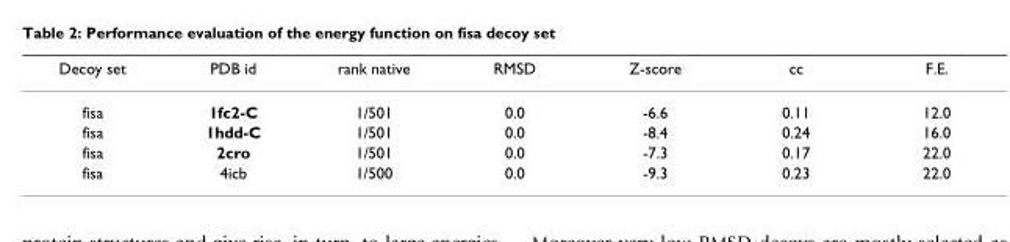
<table><thead><tr><td>Decoy set</td><td>PDB id</td><td>rank native</td><td>RMSD</td><td>Z-score</td><td>cc</td><td>F.E.</td></tr></thead><tbody><tr><td>fisa</td><td>1fc2-C</td><td>1/501</td><td>0.0</td><td>-6.6</td><td>0.11</td><td>12.0</td></tr><tr><td>fisa</td><td>1hdd-C</td><td>1/501</td><td>0.0</td><td>-8.4</td><td>0.24</td><td>16.0</td></tr><tr><td>fisa</td><td>2cro</td><td>1/501</td><td>0.0</td><td>-7.3</td><td>0.17</td><td>22.0</td></tr><tr><td>fisa</td><td>4icb</td><td>1/500</td><td>0.0</td><td>-9.3</td><td>0.23</td><td>22.0</td></tr></tbody></table>